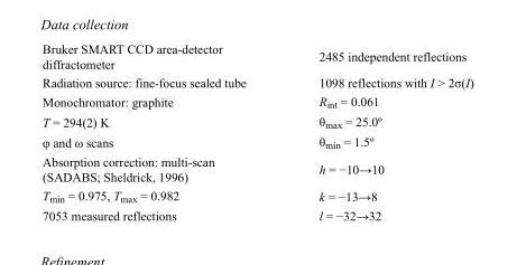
<table><tbody><tr><td>Bruker SMART CCD area-detector diffractometer</td><td>2485 independent reflections</td></tr><tr><td>Radiation source: fine-focus sealed tube</td><td>1098 reflections with I &gt; 2σ(I)</td></tr><tr><td>Monochromator: graphite</td><td>R<sub>int</sub> = 0.061</td></tr><tr><td>T = 294(2) K</td><td>θ<sub>max</sub> = 25.0º</td></tr><tr><td>φ and ω scans</td><td>θ<sub>min</sub> = 1.5º</td></tr><tr><td>Absorption correction: multi-scan (SADABS; Sheldrick, 1996)</td><td>h = −10→10</td></tr><tr><td>T<sub>min</sub> = 0.975, T<sub>max</sub> = 0.982</td><td>k = −13→8</td></tr><tr><td>7053 measured reflections</td><td>l = −32→32</td></tr></tbody></table>